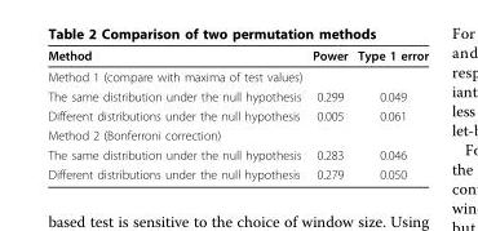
<table><thead><tr><td>Method</td><td>Power</td><td>Type 1 error</td></tr></thead><tbody><tr><td colspan="3">Method 1 (compare with maxima of test values)</td></tr><tr><td>The same distribution under the null hypothesis</td><td>0.299</td><td>0.049</td></tr><tr><td>Different distributions under the null hypothesis</td><td>0.005</td><td>0.061</td></tr><tr><td colspan="3">Method 2 (Bonferroni correction)</td></tr><tr><td>The same distribution under the null hypothesis</td><td>0.283</td><td>0.046</td></tr><tr><td>Different distributions under the null hypothesis</td><td>0.279</td><td>0.050</td></tr></tbody></table>